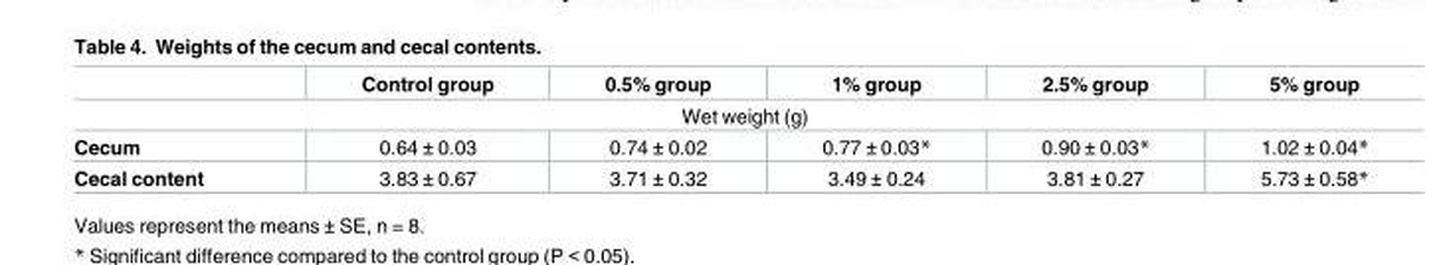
<table><thead><tr><td></td><td>Control group</td><td>0.5% group</td><td>1% group</td><td>2.5% group</td><td>5% group</td></tr></thead><tbody><tr><td colspan="6">Wet weight (g)</td></tr><tr><td>Cecum</td><td>0.64 ± 0.03</td><td>0.74 ± 0.02</td><td>0.77 ± 0.03*</td><td>0.90 ± 0.03*</td><td>1.02 ± 0.04*</td></tr><tr><td>Cecal content</td><td>3.83 ± 0.67</td><td>3.71 ± 0.32</td><td>3.49 ± 0.24</td><td>3.81 ± 0.27</td><td>5.73 ± 0.58*</td></tr></tbody></table>